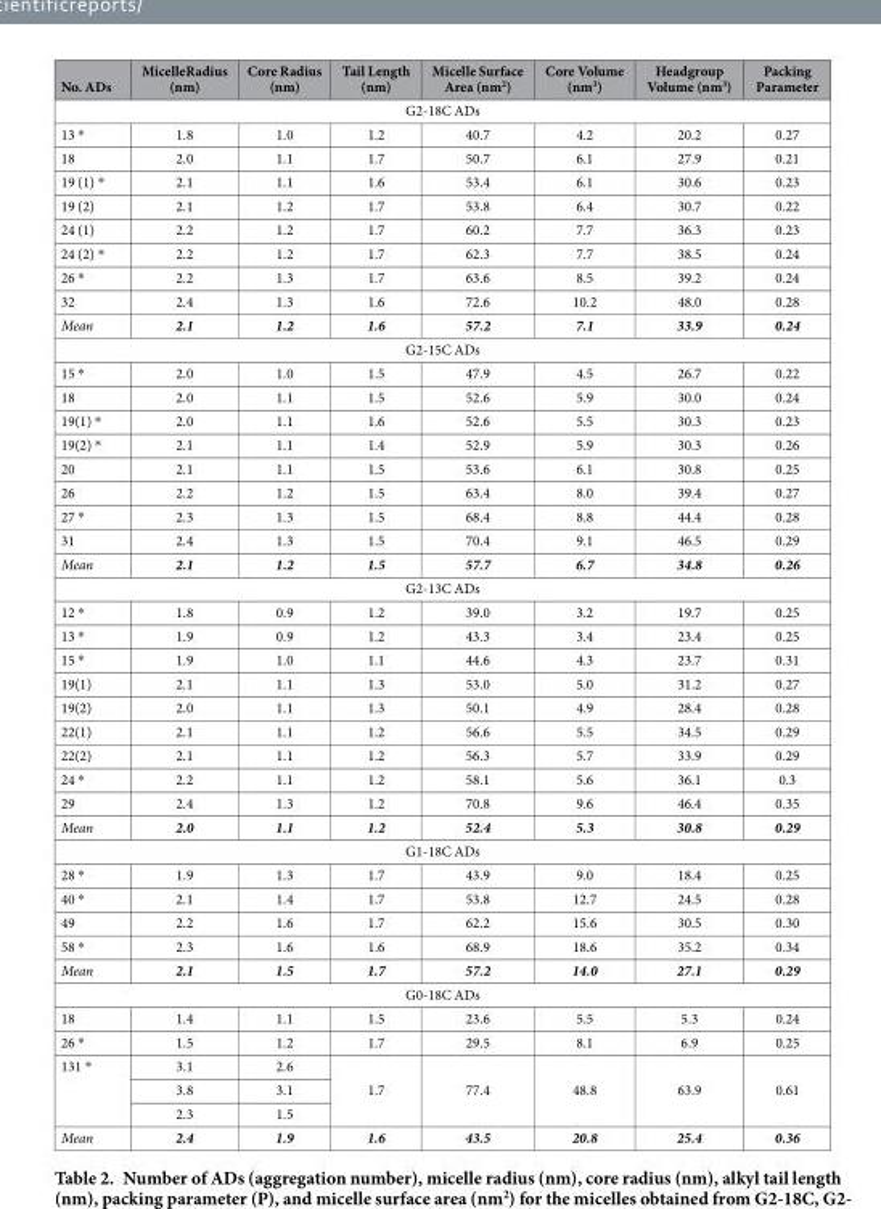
<table><thead><tr><td>No. ADs</td><td>MicelleRadius (nm)</td><td>Core Radius (nm)</td><td>Tail Length (nm)</td><td>Micelle Surface Area (nm<sup>2</sup>)</td><td>Core Volume (nm<sup>3</sup>)</td><td>Headgroup Volume (nm<sup>3</sup>)</td><td>Packing Parameter</td></tr></thead><tbody><tr><td colspan="8">G2-18C ADs</td></tr><tr><td>13 *</td><td>1.8</td><td>1.0</td><td>1.2</td><td>40.7</td><td>4.2</td><td>20.2</td><td>0.27</td></tr><tr><td>18</td><td>2.0</td><td>1.1</td><td>1.7</td><td>50.7</td><td>6.1</td><td>27.9</td><td>0.21</td></tr><tr><td>19 (1) *</td><td>2.1</td><td>1.1</td><td>1.6</td><td>53.4</td><td>6.1</td><td>30.6</td><td>0.23</td></tr><tr><td>19 (2)</td><td>2.1</td><td>1.2</td><td>1.7</td><td>53.8</td><td>6.4</td><td>30.7</td><td>0.22</td></tr><tr><td>24 (1)</td><td>2.2</td><td>1.2</td><td>1.7</td><td>60.2</td><td>7.7</td><td>36.3</td><td>0.23</td></tr><tr><td>24 (2) *</td><td>2.2</td><td>1.2</td><td>1.7</td><td>62.3</td><td>7.7</td><td>38.5</td><td>0.24</td></tr><tr><td>26 *</td><td>2.2</td><td>1.3</td><td>1.7</td><td>63.6</td><td>8.5</td><td>39.2</td><td>0.24</td></tr><tr><td>32</td><td>2.4</td><td>1.3</td><td>1.6</td><td>72.6</td><td>10.2</td><td>48.0</td><td>0.28</td></tr><tr><td>Mean</td><td>2.1</td><td>1.2</td><td>1.6</td><td>57.2</td><td>7.1</td><td>33.9</td><td>0.24</td></tr><tr><td colspan="8">G2-15C ADs</td></tr><tr><td>15 *</td><td>2.0</td><td>1.0</td><td>1.5</td><td>47.9</td><td>4.5</td><td>26.7</td><td>0.22</td></tr><tr><td>18</td><td>2.0</td><td>1.1</td><td>1.5</td><td>52.6</td><td>5.9</td><td>30.0</td><td>0.24</td></tr><tr><td>19(1) *</td><td>2.0</td><td>1.1</td><td>1.6</td><td>52.6</td><td>5.5</td><td>30.3</td><td>0.23</td></tr><tr><td>19(2) *</td><td>2.1</td><td>1.1</td><td>1.4</td><td>52.9</td><td>5.9</td><td>30.3</td><td>0.26</td></tr><tr><td>20</td><td>2.1</td><td>1.1</td><td>1.5</td><td>53.6</td><td>6.1</td><td>30.8</td><td>0.25</td></tr><tr><td>26</td><td>2.2</td><td>1.2</td><td>1.5</td><td>63.4</td><td>8.0</td><td>39.4</td><td>0.27</td></tr><tr><td>27 *</td><td>2.3</td><td>1.3</td><td>1.5</td><td>68.4</td><td>8.8</td><td>44.4</td><td>0.28</td></tr><tr><td>31</td><td>2.4</td><td>1.3</td><td>1.5</td><td>70.4</td><td>9.1</td><td>46.5</td><td>0.29</td></tr><tr><td>Mean</td><td>2.1</td><td>1.2</td><td>1.5</td><td>57.7</td><td>6.7</td><td>34.8</td><td>0.26</td></tr><tr><td colspan="8">G2-13C ADs</td></tr><tr><td>12 *</td><td>1.8</td><td>0.9</td><td>1.2</td><td>39.0</td><td>3.2</td><td>19.7</td><td>0.25</td></tr><tr><td>13 *</td><td>1.9</td><td>0.9</td><td>1.2</td><td>43.3</td><td>3.4</td><td>23.4</td><td>0.25</td></tr><tr><td>15 *</td><td>1.9</td><td>1.0</td><td>1.1</td><td>44.6</td><td>4.3</td><td>23.7</td><td>0.31</td></tr><tr><td>19(1)</td><td>2.1</td><td>1.1</td><td>1.3</td><td>53.0</td><td>5.0</td><td>31.2</td><td>0.27</td></tr><tr><td>19(2)</td><td>2.0</td><td>1.1</td><td>1.3</td><td>50.1</td><td>4.9</td><td>28.4</td><td>0.28</td></tr><tr><td>22(1)</td><td>2.1</td><td>1.1</td><td>1.2</td><td>56.6</td><td>5.5</td><td>34.5</td><td>0.29</td></tr><tr><td>22(2)</td><td>2.1</td><td>1.1</td><td>1.2</td><td>56.3</td><td>5.7</td><td>33.9</td><td>0.29</td></tr><tr><td>24 *</td><td>2.2</td><td>1.1</td><td>1.2</td><td>58.1</td><td>5.6</td><td>36.1</td><td>0.3</td></tr><tr><td>29</td><td>2.4</td><td>1.3</td><td>1.2</td><td>70.8</td><td>9.6</td><td>46.4</td><td>0.35</td></tr><tr><td>Mean</td><td>2.0</td><td>1.1</td><td>1.2</td><td>52.4</td><td>5.3</td><td>30.8</td><td>0.29</td></tr><tr><td colspan="8">G1-18C ADs</td></tr><tr><td>28 *</td><td>1.9</td><td>1.3</td><td>1.7</td><td>43.9</td><td>9.0</td><td>18.4</td><td>0.25</td></tr><tr><td>40 *</td><td>2.1</td><td>1.4</td><td>1.7</td><td>53.8</td><td>12.7</td><td>24.5</td><td>0.28</td></tr><tr><td>49</td><td>2.2</td><td>1.6</td><td>1.7</td><td>62.2</td><td>15.6</td><td>30.5</td><td>0.30</td></tr><tr><td>58 *</td><td>2.3</td><td>1.6</td><td>1.6</td><td>68.9</td><td>18.6</td><td>35.2</td><td>0.34</td></tr><tr><td>Mean</td><td>2.1</td><td>1.5</td><td>1.7</td><td>57.2</td><td>14.0</td><td>27.1</td><td>0.29</td></tr><tr><td colspan="8">G0-18C ADs</td></tr><tr><td>18</td><td>1.4</td><td>1.1</td><td>1.5</td><td>23.6</td><td>5.5</td><td>5.3</td><td>0.24</td></tr><tr><td>26 *</td><td>1.5</td><td>1.2</td><td>1.7</td><td>29.5</td><td>8.1</td><td>6.9</td><td>0.25</td></tr><tr><td rowspan="3">131 *</td><td>3.1</td><td>2.6</td><td rowspan="3">1.7</td><td rowspan="3">77.4</td><td rowspan="3">48.8</td><td rowspan="3">63.9</td><td rowspan="3">0.61</td></tr><tr><td>3.8</td><td>3.1</td></tr><tr><td>2.3</td><td>1.5</td></tr><tr><td>Mean</td><td>2.4</td><td>1.9</td><td>1.6</td><td>43.5</td><td>20.8</td><td>25.4</td><td>0.36</td></tr></tbody></table>